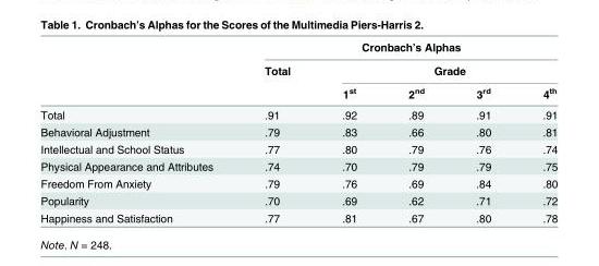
<table><thead><tr><td rowspan="3"></td><td colspan="5">Cronbach’s Alphas</td></tr><tr><td rowspan="2">Total</td><td colspan="4">Grade</td></tr><tr><td>1<sup>st</sup></td><td>2<sup>nd</sup></td><td>3<sup>rd</sup></td><td>4<sup>th</sup></td></tr></thead><tbody><tr><td>Total</td><td>.91</td><td>.92</td><td>.89</td><td>.91</td><td>.91</td></tr><tr><td>Behavioral Adjustment</td><td>.79</td><td>.83</td><td>.66</td><td>.80</td><td>.81</td></tr><tr><td>Intellectual and School Status</td><td>.77</td><td>.80</td><td>.79</td><td>.76</td><td>.74</td></tr><tr><td>Physical Appearance and Attributes</td><td>.74</td><td>.70</td><td>.79</td><td>.79</td><td>.75</td></tr><tr><td>Freedom From Anxiety</td><td>.79</td><td>.76</td><td>.69</td><td>.84</td><td>.80</td></tr><tr><td>Popularity</td><td>.70</td><td>.69</td><td>.62</td><td>.71</td><td>.72</td></tr><tr><td>Happiness and Satisfaction</td><td>.77</td><td>.81</td><td>.67</td><td>.80</td><td>.78</td></tr></tbody></table>